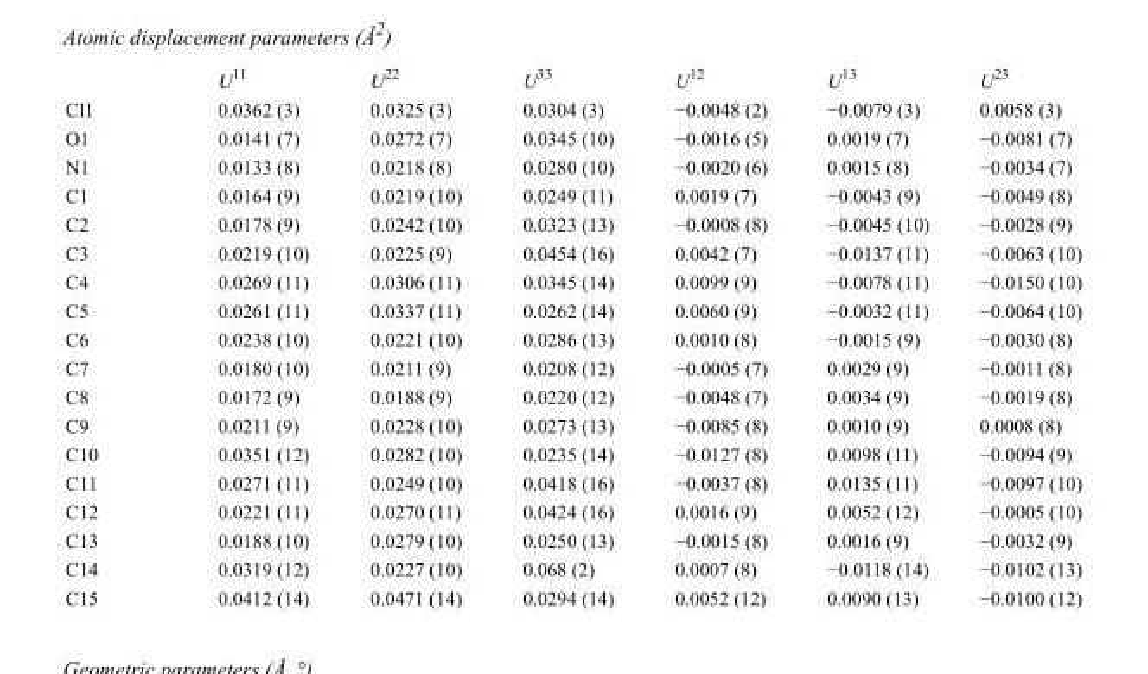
<table><thead><tr><td></td><td>U<sup>11</sup></td><td>U<sup>22</sup></td><td>U<sup>33</sup></td><td>U<sup>12</sup></td><td>U<sup>13</sup></td><td>U<sup>23</sup></td></tr></thead><tbody><tr><td>Cl1</td><td>0.0362 (3)</td><td>0.0325 (3)</td><td>0.0304 (3)</td><td>−0.0048 (2)</td><td>−0.0079 (3)</td><td>0.0058 (3)</td></tr><tr><td>O1</td><td>0.0141 (7)</td><td>0.0272 (7)</td><td>0.0345 (10)</td><td>−0.0016 (5)</td><td>0.0019 (7)</td><td>−0.0081 (7)</td></tr><tr><td>N1</td><td>0.0133 (8)</td><td>0.0218 (8)</td><td>0.0280 (10)</td><td>−0.0020 (6)</td><td>0.0015 (8)</td><td>−0.0034 (7)</td></tr><tr><td>C1</td><td>0.0164 (9)</td><td>0.0219 (10)</td><td>0.0249 (11)</td><td>0.0019 (7)</td><td>−0.0043 (9)</td><td>−0.0049 (8)</td></tr><tr><td>C2</td><td>0.0178 (9)</td><td>0.0242 (10)</td><td>0.0323 (13)</td><td>−0.0008 (8)</td><td>−0.0045 (10)</td><td>−0.0028 (9)</td></tr><tr><td>C3</td><td>0.0219 (10)</td><td>0.0225 (9)</td><td>0.0454 (16)</td><td>0.0042 (7)</td><td>−0.0137 (11)</td><td>−0.0063 (10)</td></tr><tr><td>C4</td><td>0.0269 (11)</td><td>0.0306 (11)</td><td>0.0345 (14)</td><td>0.0099 (9)</td><td>−0.0078 (11)</td><td>−0.0150 (10)</td></tr><tr><td>C5</td><td>0.0261 (11)</td><td>0.0337 (11)</td><td>0.0262 (14)</td><td>0.0060 (9)</td><td>−0.0032 (11)</td><td>−0.0064 (10)</td></tr><tr><td>C6</td><td>0.0238 (10)</td><td>0.0221 (10)</td><td>0.0286 (13)</td><td>0.0010 (8)</td><td>−0.0015 (9)</td><td>−0.0030 (8)</td></tr><tr><td>C7</td><td>0.0180 (10)</td><td>0.0211 (9)</td><td>0.0208 (12)</td><td>−0.0005 (7)</td><td>0.0029 (9)</td><td>−0.0011 (8)</td></tr><tr><td>C8</td><td>0.0172 (9)</td><td>0.0188 (9)</td><td>0.0220 (12)</td><td>−0.0048 (7)</td><td>0.0034 (9)</td><td>−0.0019 (8)</td></tr><tr><td>C9</td><td>0.0211 (9)</td><td>0.0228 (10)</td><td>0.0273 (13)</td><td>−0.0085 (8)</td><td>0.0010 (9)</td><td>0.0008 (8)</td></tr><tr><td>C10</td><td>0.0351 (12)</td><td>0.0282 (10)</td><td>0.0235 (14)</td><td>−0.0127 (8)</td><td>0.0098 (11)</td><td>−0.0094 (9)</td></tr><tr><td>C11</td><td>0.0271 (11)</td><td>0.0249 (10)</td><td>0.0418 (16)</td><td>−0.0037 (8)</td><td>0.0135 (11)</td><td>−0.0097 (10)</td></tr><tr><td>C12</td><td>0.0221 (11)</td><td>0.0270 (11)</td><td>0.0424 (16)</td><td>0.0016 (9)</td><td>0.0052 (12)</td><td>−0.0005 (10)</td></tr><tr><td>C13</td><td>0.0188 (10)</td><td>0.0279 (10)</td><td>0.0250 (13)</td><td>−0.0015 (8)</td><td>0.0016 (9)</td><td>−0.0032 (9)</td></tr><tr><td>C14</td><td>0.0319 (12)</td><td>0.0227 (10)</td><td>0.068 (2)</td><td>0.0007 (8)</td><td>−0.0118 (14)</td><td>−0.0102 (13)</td></tr><tr><td>C15</td><td>0.0412 (14)</td><td>0.0471 (14)</td><td>0.0294 (14)</td><td>0.0052 (12)</td><td>0.0090 (13)</td><td>−0.0100 (12)</td></tr></tbody></table>